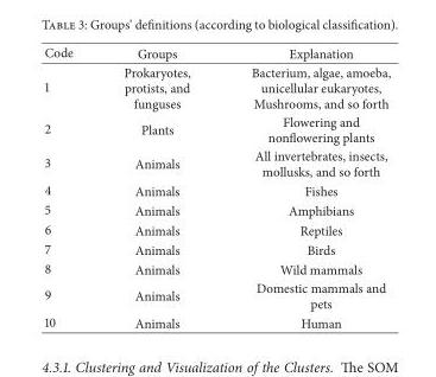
<table><thead><tr><td>Code</td><td>Groups</td><td>Explanation</td></tr></thead><tbody><tr><td>1</td><td>Prokaryotes, protists, and funguses</td><td>Bacterium, algae, amoeba, unicellular eukaryotes, Mushrooms, and so forth</td></tr><tr><td>2</td><td>Plants</td><td>Flowering and nonflowering plants</td></tr><tr><td>3</td><td>Animals</td><td>All invertebrates, insects, mollusks, and so forth</td></tr><tr><td>4</td><td>Animals</td><td>Fishes</td></tr><tr><td>5</td><td>Animals</td><td>Amphibians</td></tr><tr><td>6</td><td>Animals</td><td>Reptiles</td></tr><tr><td>7</td><td>Animals</td><td>Birds</td></tr><tr><td>8</td><td>Animals</td><td>Wild mammals</td></tr><tr><td>9</td><td>Animals</td><td>Domestic mammals and pets</td></tr><tr><td>10</td><td>Animals</td><td>Human</td></tr></tbody></table>